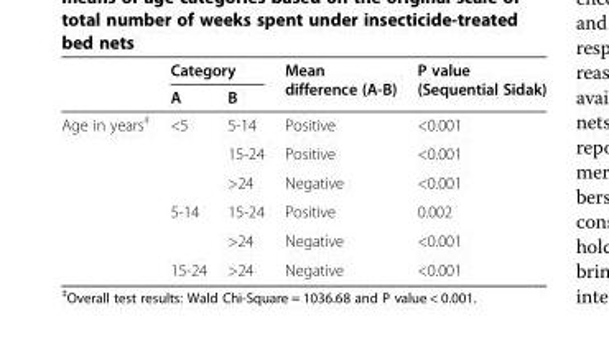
<table><thead><tr><td rowspan="2"></td><td colspan="2">Category</td><td rowspan="2">Mean difference (A-B)</td><td rowspan="2">P value (Sequential Sidak)</td></tr><tr><td>A</td><td>B</td></tr></thead><tbody><tr><td rowspan="6">Age in years<sup>‡</sup></td><td rowspan="3">&lt;5</td><td>5-14</td><td>Positive</td><td>&lt;0.001</td></tr><tr><td>15-24</td><td>Positive</td><td>&lt;0.001</td></tr><tr><td>&gt;24</td><td>Negative</td><td>&lt;0.001</td></tr><tr><td rowspan="2">5-14</td><td>15-24</td><td>Positive</td><td>0.002</td></tr><tr><td>&gt;24</td><td>Negative</td><td>&lt;0.001</td></tr><tr><td>15-24</td><td>&gt;24</td><td>Negative</td><td>&lt;0.001</td></tr></tbody></table>